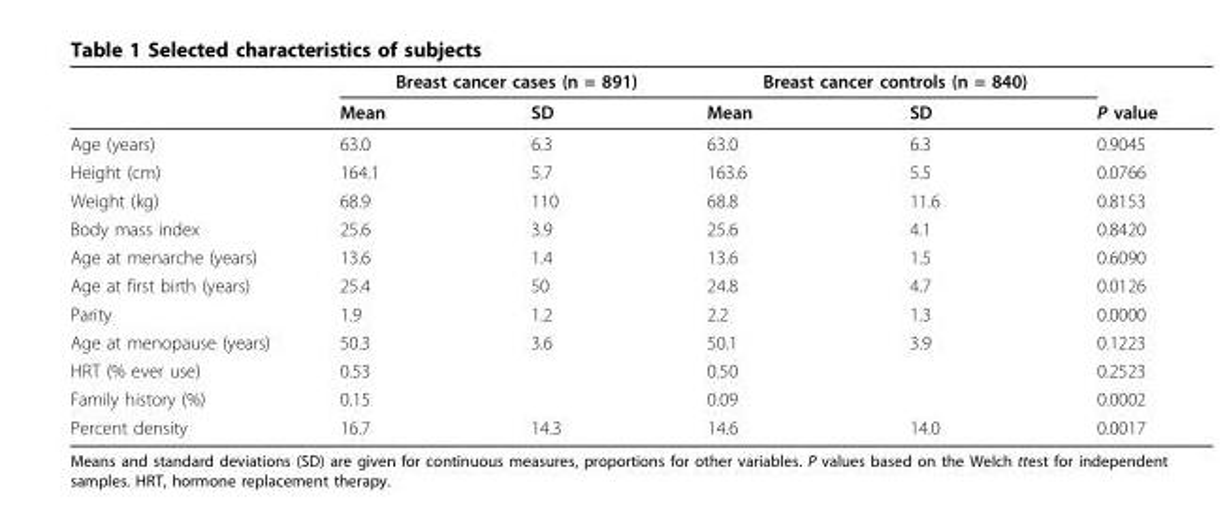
<table><thead><tr><td rowspan="2"></td><td colspan="2">Breast cancer cases (n = 891)</td><td colspan="2">Breast cancer controls (n = 840)</td><td rowspan="2">P value</td></tr><tr><td>Mean</td><td>SD</td><td>Mean</td><td>SD</td></tr></thead><tbody><tr><td>Age (years)</td><td>63.0</td><td>6.3</td><td>63.0</td><td>6.3</td><td>0.9045</td></tr><tr><td>Height (cm)</td><td>164.1</td><td>5.7</td><td>163.6</td><td>5.5</td><td>0.0766</td></tr><tr><td>Weight (kg)</td><td>68.9</td><td>110</td><td>68.8</td><td>11.6</td><td>0.8153</td></tr><tr><td>Body mass index</td><td>25.6</td><td>3.9</td><td>25.6</td><td>4.1</td><td>0.8420</td></tr><tr><td>Age at menarche (years)</td><td>13.6</td><td>1.4</td><td>13.6</td><td>1.5</td><td>0.6090</td></tr><tr><td>Age at first birth (years)</td><td>25.4</td><td>50</td><td>24.8</td><td>4.7</td><td>0.0126</td></tr><tr><td>Parity</td><td>1.9</td><td>1.2</td><td>2.2</td><td>1.3</td><td>0.0000</td></tr><tr><td>Age at menopause (years)</td><td>50.3</td><td>3.6</td><td>50.1</td><td>3.9</td><td>0.1223</td></tr><tr><td>HRT (% ever use)</td><td>0.53</td><td></td><td>0.50</td><td></td><td>0.2523</td></tr><tr><td>Family history (%)</td><td>0.15</td><td></td><td>0.09</td><td></td><td>0.0002</td></tr><tr><td>Percent density</td><td>16.7</td><td>14.3</td><td>14.6</td><td>14.0</td><td>0.0017</td></tr></tbody></table>